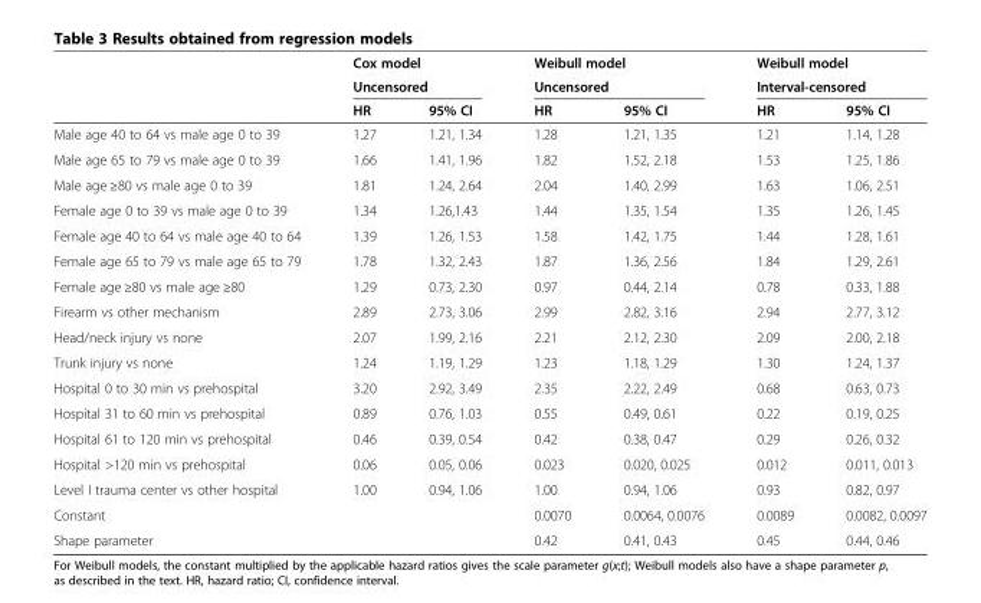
<table><thead><tr><td rowspan="3"></td><td rowspan="2" colspan="2">Cox model Uncensored</td><td rowspan="2" colspan="2">Weibull model Uncensored</td><td rowspan="2" colspan="2">Weibull model Interval-censored</td></tr><tr></tr><tr><td>HR</td><td>95% CI</td><td>HR</td><td>95% CI</td><td>HR</td><td>95% CI</td></tr></thead><tbody><tr><td>Male age 40 to 64 vs male age 0 to 39</td><td>1.27</td><td>1.21, 1.34</td><td>1.28</td><td>1.21, 1.35</td><td>1.21</td><td>1.14, 1.28</td></tr><tr><td>Male age 65 to 79 vs male age 0 to 39</td><td>1.66</td><td>1.41, 1.96</td><td>1.82</td><td>1.52, 2.18</td><td>1.53</td><td>1.25, 1.86</td></tr><tr><td>Male age ≥80 vs male age 0 to 39</td><td>1.81</td><td>1.24, 2.64</td><td>2.04</td><td>1.40, 2.99</td><td>1.63</td><td>1.06, 2.51</td></tr><tr><td>Female age 0 to 39 vs male age 0 to 39</td><td>1.34</td><td>1.26,1.43</td><td>1.44</td><td>1.35, 1.54</td><td>1.35</td><td>1.26, 1.45</td></tr><tr><td>Female age 40 to 64 vs male age 40 to 64</td><td>1.39</td><td>1.26, 1.53</td><td>1.58</td><td>1.42, 1.75</td><td>1.44</td><td>1.28, 1.61</td></tr><tr><td>Female age 65 to 79 vs male age 65 to 79</td><td>1.78</td><td>1.32, 2.43</td><td>1.87</td><td>1.36, 2.56</td><td>1.84</td><td>1.29, 2.61</td></tr><tr><td>Female age ≥80 vs male age ≥80</td><td>1.29</td><td>0.73, 2.30</td><td>0.97</td><td>0.44, 2.14</td><td>0.78</td><td>0.33, 1.88</td></tr><tr><td>Firearm vs other mechanism</td><td>2.89</td><td>2.73, 3.06</td><td>2.99</td><td>2.82, 3.16</td><td>2.94</td><td>2.77, 3.12</td></tr><tr><td>Head/neck injury vs none</td><td>2.07</td><td>1.99, 2.16</td><td>2.21</td><td>2.12, 2.30</td><td>2.09</td><td>2.00, 2.18</td></tr><tr><td>Trunk injury vs none</td><td>1.24</td><td>1.19, 1.29</td><td>1.23</td><td>1.18, 1.29</td><td>1.30</td><td>1.24, 1.37</td></tr><tr><td>Hospital 0 to 30 min vs prehospital</td><td>3.20</td><td>2.92, 3.49</td><td>2.35</td><td>2.22, 2.49</td><td>0.68</td><td>0.63, 0.73</td></tr><tr><td>Hospital 31 to 60 min vs prehospital</td><td>0.89</td><td>0.76, 1.03</td><td>0.55</td><td>0.49, 0.61</td><td>0.22</td><td>0.19, 0.25</td></tr><tr><td>Hospital 61 to 120 min vs prehospital</td><td>0.46</td><td>0.39, 0.54</td><td>0.42</td><td>0.38, 0.47</td><td>0.29</td><td>0.26, 0.32</td></tr><tr><td>Hospital &gt;120 min vs prehospital</td><td>0.06</td><td>0.05, 0.06</td><td>0.023</td><td>0.020, 0.025</td><td>0.012</td><td>0.011, 0.013</td></tr><tr><td>Level I trauma center vs other hospital</td><td>1.00</td><td>0.94, 1.06</td><td>1.00</td><td>0.94, 1.06</td><td>0.93</td><td>0.82, 0.97</td></tr><tr><td>Constant</td><td></td><td></td><td>0.0070</td><td>0.0064, 0.0076</td><td>0.0089</td><td>0.0082, 0.0097</td></tr><tr><td>Shape parameter</td><td></td><td></td><td>0.42</td><td>0.41, 0.43</td><td>0.45</td><td>0.44, 0.46</td></tr></tbody></table>